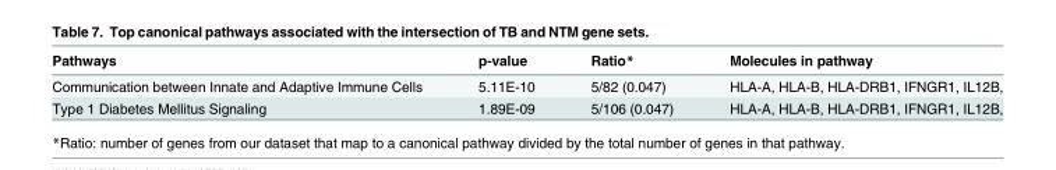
<table><thead><tr><td>Pathways</td><td>p-value</td><td>Ratio*</td><td>Molecules in pathway</td></tr></thead><tbody><tr><td>Communication between Innate and Adaptive Immune Cells</td><td>5.11E-10</td><td>5/82 (0.047)</td><td>HLA-A, HLA-B, HLA-DRB1, IFNGR1, IL12B,</td></tr><tr><td>Type 1 Diabetes Mellitus Signaling</td><td>1.89E-09</td><td>5/106 (0.047)</td><td>HLA-A, HLA-B, HLA-DRB1, IFNGR1, IL12B,</td></tr></tbody></table>